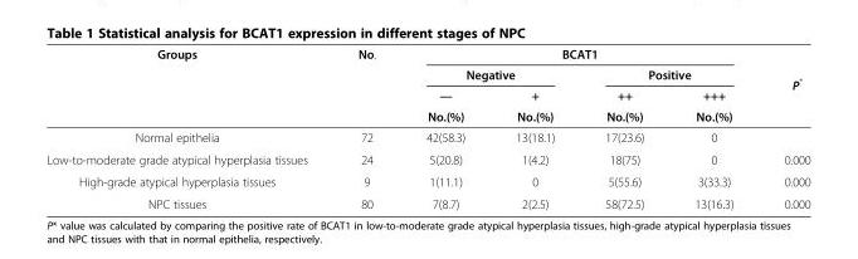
<table><thead><tr><td rowspan="4">Groups</td><td rowspan="4">No.</td><td colspan="4">BCAT1</td><td rowspan="4">P*</td></tr><tr><td colspan="2">Negative</td><td colspan="2">Positive</td></tr><tr><td rowspan="2">— No.(%)</td><td rowspan="2">+ No.(%)</td><td rowspan="2">++ No.(%)</td><td rowspan="2">+++ No.(%)</td></tr><tr></tr></thead><tbody><tr><td>Normal epithelia</td><td>72</td><td>42(58.3)</td><td>13(18.1)</td><td>17(23.6)</td><td>0</td><td></td></tr><tr><td>Low-to-moderate grade atypical hyperplasia tissues</td><td>24</td><td>5(20.8)</td><td>1(4.2)</td><td>18(75)</td><td>0</td><td>0.000</td></tr><tr><td>High-grade atypical hyperplasia tissues</td><td>9</td><td>1(11.1)</td><td>0</td><td>5(55.6)</td><td>3(33.3)</td><td>0.000</td></tr><tr><td>NPC tissues</td><td>80</td><td>7(8.7)</td><td>2(2.5)</td><td>58(72.5)</td><td>13(16.3)</td><td>0.000</td></tr></tbody></table>